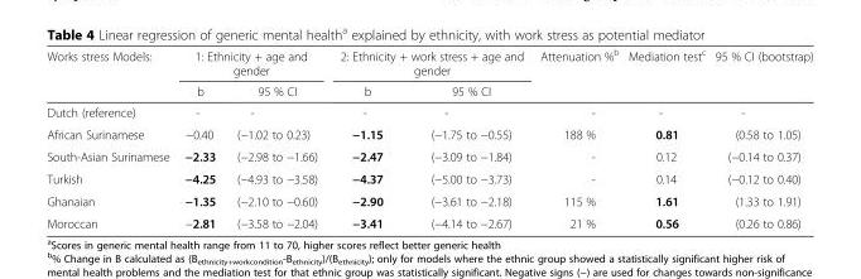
<table><thead><tr><td rowspan="2">Works stress Models:</td><td colspan="2">1: Ethnicity + age and gender</td><td colspan="2">2: Ethnicity + work stress + age and gender</td><td rowspan="2">Attenuation %<sup>b</sup></td><td rowspan="2">Mediation test<sup>c</sup></td><td rowspan="2">95 % CI (bootstrap)</td></tr><tr><td>b</td><td>95 % CI</td><td>b</td><td>95 % CI</td></tr></thead><tbody><tr><td>Dutch (reference)</td><td>-</td><td>-</td><td>-</td><td>-</td><td>-</td><td>-</td><td>-</td></tr><tr><td>African Surinamese</td><td>−0.40</td><td>(−1.02 to 0.23)</td><td>−1.15</td><td>(−1.75 to −0.55)</td><td>188 %</td><td>0.81</td><td>(0.58 to 1.05)</td></tr><tr><td>South-Asian Surinamese</td><td>−2.33</td><td>(−2.98 to −1.66)</td><td>−2.47</td><td>(−3.09 to −1.84)</td><td>-</td><td>0.12</td><td>(−0.14 to 0.37)</td></tr><tr><td>Turkish</td><td>−4.25</td><td>(−4.93 to −3.58)</td><td>−4.37</td><td>(−5.00 to −3.73)</td><td>-</td><td>0.14</td><td>(−0.12 to 0.40)</td></tr><tr><td>Ghanaian</td><td>−1.35</td><td>(−2.10 to −0.60)</td><td>−2.90</td><td>(−3.61 to −2.18)</td><td>115 %</td><td>1.61</td><td>(1.33 to 1.91)</td></tr><tr><td>Moroccan</td><td>−2.81</td><td>(−3.58 to −2.04)</td><td>−3.41</td><td>(−4.14 to −2.67)</td><td>21 %</td><td>0.56</td><td>(0.26 to 0.86)</td></tr></tbody></table>